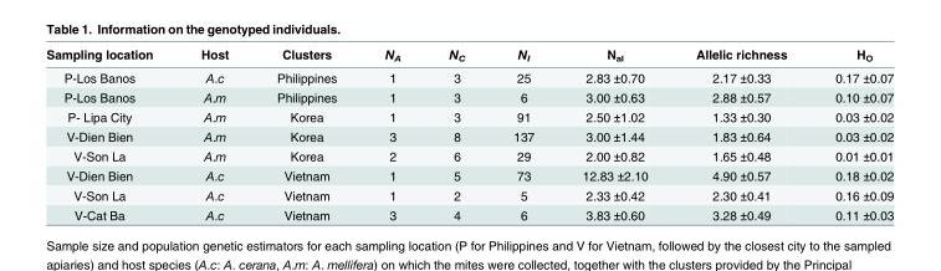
<table><thead><tr><td>Sampling location</td><td>Host</td><td>Clusters</td><td>N<sub>A</sub></td><td>N<sub>C</sub></td><td>N<sub>I</sub></td><td>N<sub>al</sub></td><td>Allelic richness</td><td>H<sub>O</sub></td></tr></thead><tbody><tr><td>P-Los Banos</td><td>A.c</td><td>Philippines</td><td>1</td><td>3</td><td>25</td><td>2.83 ±0.70</td><td>2.17 ±0.33</td><td>0.17 ±0.07</td></tr><tr><td>P-Los Banos</td><td>A.m</td><td>Philippines</td><td>1</td><td>3</td><td>6</td><td>3.00 ±0.63</td><td>2.88 ±0.57</td><td>0.10 ±0.07</td></tr><tr><td>P- Lipa City</td><td>A.m</td><td>Korea</td><td>1</td><td>3</td><td>91</td><td>2.50 ±1.02</td><td>1.33 ±0.30</td><td>0.03 ±0.02</td></tr><tr><td>V-Dien Bien</td><td>A.m</td><td>Korea</td><td>3</td><td>8</td><td>137</td><td>3.00 ±1.44</td><td>1.83 ±0.64</td><td>0.03 ±0.02</td></tr><tr><td>V-Son La</td><td>A.m</td><td>Korea</td><td>2</td><td>6</td><td>29</td><td>2.00 ±0.82</td><td>1.65 ±0.48</td><td>0.01 ±0.01</td></tr><tr><td>V-Dien Bien</td><td>A.c</td><td>Vietnam</td><td>1</td><td>5</td><td>73</td><td>12.83 ±2.10</td><td>4.90 ±0.57</td><td>0.18 ±0.02</td></tr><tr><td>V-Son La</td><td>A.c</td><td>Vietnam</td><td>1</td><td>2</td><td>5</td><td>2.33 ±0.42</td><td>2.30 ±0.41</td><td>0.16 ±0.09</td></tr><tr><td>V-Cat Ba</td><td>A.c</td><td>Vietnam</td><td>3</td><td>4</td><td>6</td><td>3.83 ±0.60</td><td>3.28 ±0.49</td><td>0.11 ±0.03</td></tr></tbody></table>